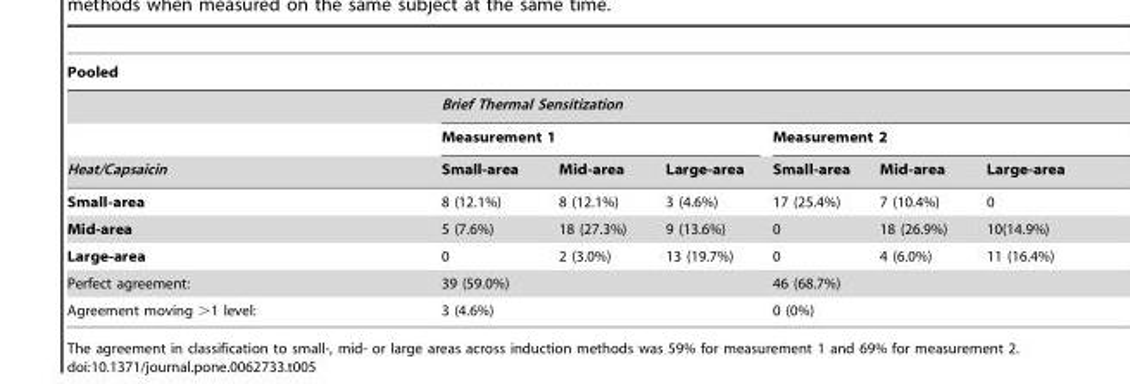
<table><thead><tr><td colspan="7">Pooled</td></tr><tr><td rowspan="3">Heat/Capsaicin</td><td colspan="6">Brief Thermal Sensitization</td></tr><tr><td colspan="3">Measurement 1</td><td colspan="3">Measurement 2</td></tr><tr><td>Small-area</td><td>Mid-area</td><td>Large-area</td><td>Small-area</td><td>Mid-area</td><td>Large-area</td></tr></thead><tbody><tr><td>Small-area</td><td>8 (12.1%)</td><td>8 (12.1%)</td><td>3 (4.6%)</td><td>17 (25.4%)</td><td>7 (10.4%)</td><td>0</td></tr><tr><td>Mid-area</td><td>5 (7.6%)</td><td>18 (27.3%)</td><td>9 (13.6%)</td><td>0</td><td>18 (26.9%)</td><td>10(14.9%)</td></tr><tr><td>Large-area</td><td>0</td><td>2 (3.0%)</td><td>13 (19.7%)</td><td>0</td><td>4 (6.0%)</td><td>11 (16.4%)</td></tr><tr><td>Perfect agreement:</td><td>39 (59.0%)</td><td></td><td></td><td>46 (68.7%)</td><td></td><td></td></tr><tr><td>Agreement moving &gt;1 level:</td><td>3 (4.6%)</td><td></td><td></td><td>0 (0%)</td><td></td><td></td></tr></tbody></table>